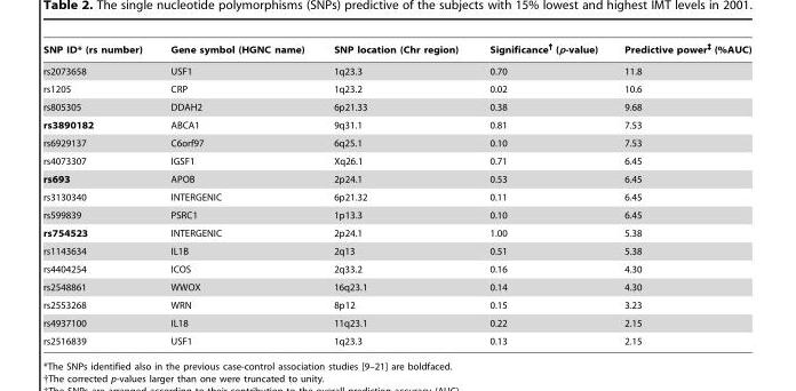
<table><thead><tr><td>SNP ID* (rs number)</td><td>Gene symbol (HGNC name)</td><td>SNP location (Chr region)</td><td>Significance† (p-value)</td><td>Predictive power‡ (%AUC)</td></tr></thead><tbody><tr><td>rs2073658</td><td>USF1</td><td>1q23.3</td><td>0.70</td><td>11.8</td></tr><tr><td>rs1205</td><td>CRP</td><td>1q23.2</td><td>0.02</td><td>10.6</td></tr><tr><td>rs805305</td><td>DDAH2</td><td>6p21.33</td><td>0.38</td><td>9.68</td></tr><tr><td>rs3890182</td><td>ABCA1</td><td>9q31.1</td><td>0.81</td><td>7.53</td></tr><tr><td>rs6929137</td><td>C6orf97</td><td>6q25.1</td><td>0.10</td><td>7.53</td></tr><tr><td>rs4073307</td><td>IGSF1</td><td>Xq26.1</td><td>0.71</td><td>6.45</td></tr><tr><td>rs693</td><td>APOB</td><td>2p24.1</td><td>0.53</td><td>6.45</td></tr><tr><td>rs3130340</td><td>INTERGENIC</td><td>6p21.32</td><td>0.11</td><td>6.45</td></tr><tr><td>rs599839</td><td>PSRC1</td><td>1p13.3</td><td>0.10</td><td>6.45</td></tr><tr><td>rs754523</td><td>INTERGENIC</td><td>2p24.1</td><td>1.00</td><td>5.38</td></tr><tr><td>rs1143634</td><td>IL1B</td><td>2q13</td><td>0.51</td><td>5.38</td></tr><tr><td>rs4404254</td><td>ICOS</td><td>2q33.2</td><td>0.16</td><td>4.30</td></tr><tr><td>rs2548861</td><td>WWOX</td><td>16q23.1</td><td>0.14</td><td>4.30</td></tr><tr><td>rs2553268</td><td>WRN</td><td>8p12</td><td>0.15</td><td>3.23</td></tr><tr><td>rs4937100</td><td>IL18</td><td>11q23.1</td><td>0.22</td><td>2.15</td></tr><tr><td>rs2516839</td><td>USF1</td><td>1q23.3</td><td>0.13</td><td>2.15</td></tr></tbody></table>